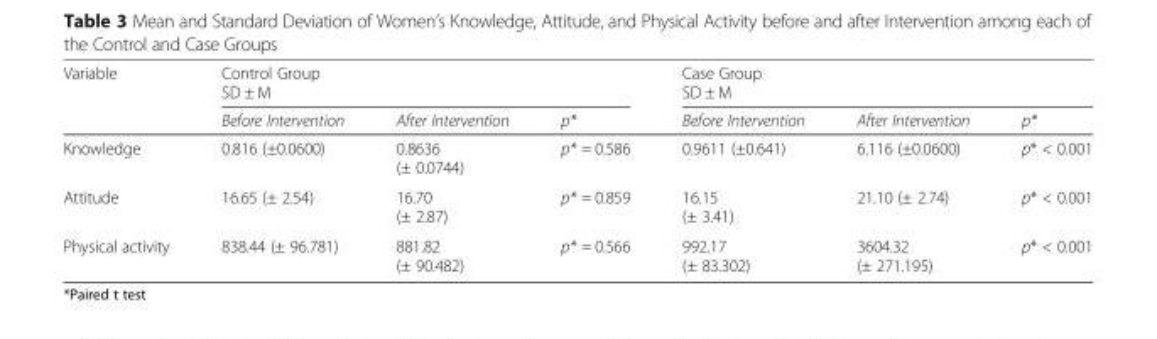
<table><thead><tr><td rowspan="2">Variable</td><td colspan="3">Control Group SD ± M</td><td colspan="3">Case Group SD ± M</td></tr><tr><td>Before Intervention</td><td>After Intervention</td><td>p*</td><td>Before Intervention</td><td>After Intervention</td><td>p*</td></tr></thead><tbody><tr><td>Knowledge</td><td>0.816 (±0.0600)</td><td>0.8636 (± 0.0744)</td><td>p* = 0.586</td><td>0.9611 (±0.641)</td><td>6.116 (±0.0600)</td><td>p* &lt; 0.001</td></tr><tr><td>Attitude</td><td>16.65 (± 2.54)</td><td>16.70 (± 2.87)</td><td>p* = 0.859</td><td>16.15 (± 3.41)</td><td>21.10 (± 2.74)</td><td>p* &lt; 0.001</td></tr><tr><td>Physical activity</td><td>838.44 (± 96.781)</td><td>881.82 (± 90.482)</td><td>p* = 0.566</td><td>992.17 (± 83.302)</td><td>3604.32 (± 271.195)</td><td>p* &lt; 0.001</td></tr></tbody></table>